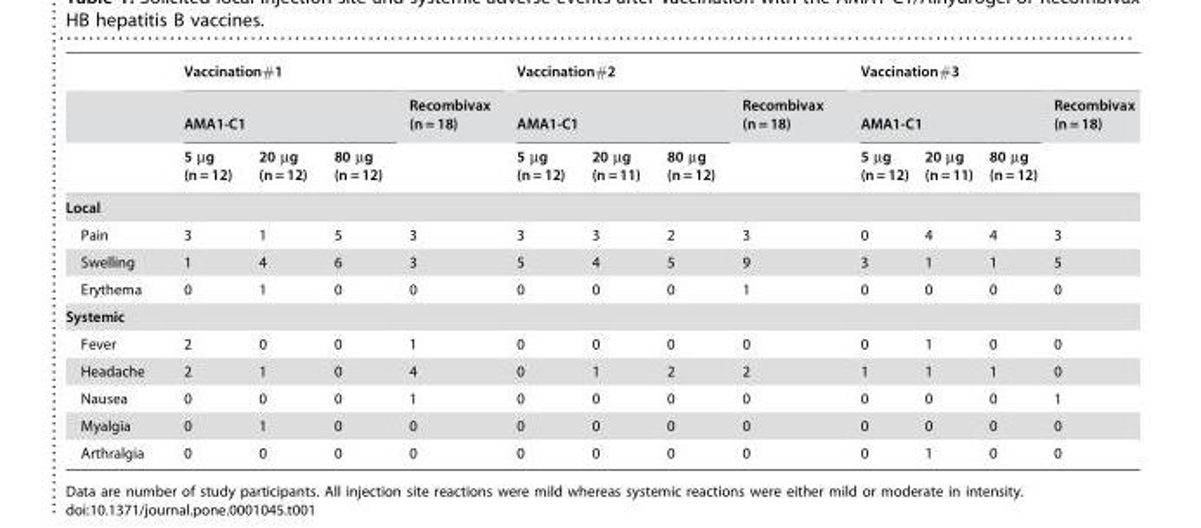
<table><thead><tr><td rowspan="3"></td><td colspan="4">Vaccination#1</td><td colspan="4">Vaccination#2</td><td colspan="4">Vaccination#3</td></tr><tr><td colspan="3">AMA1-C1</td><td rowspan="2">Recombivax (n = 18)</td><td colspan="3">AMA1-C1</td><td rowspan="2">Recombivax (n = 18)</td><td colspan="3">AMA1-C1</td><td rowspan="2">Recombivax (n = 18)</td></tr><tr><td>5 µg (n = 12)</td><td>20 µg (n = 12)</td><td>80 µg (n = 12)</td><td>5 µg (n = 12)</td><td>20 µg (n = 11)</td><td>80 µg (n = 12)</td><td>5 µg (n = 12)</td><td>20 µg (n = 11)</td><td>80 µg (n = 12)</td></tr></thead><tbody><tr><td colspan="13">Local</td></tr><tr><td>Pain</td><td>3</td><td>1</td><td>5</td><td>3</td><td>3</td><td>3</td><td>2</td><td>3</td><td>0</td><td>4</td><td>4</td><td>3</td></tr><tr><td>Swelling</td><td>1</td><td>4</td><td>6</td><td>3</td><td>5</td><td>4</td><td>5</td><td>9</td><td>3</td><td>1</td><td>1</td><td>5</td></tr><tr><td>Erythema</td><td>0</td><td>1</td><td>0</td><td>0</td><td>0</td><td>0</td><td>0</td><td>1</td><td>0</td><td>0</td><td>0</td><td>0</td></tr><tr><td colspan="13">Systemic</td></tr><tr><td>Fever</td><td>2</td><td>0</td><td>0</td><td>1</td><td>0</td><td>0</td><td>0</td><td>0</td><td>0</td><td>1</td><td>0</td><td>0</td></tr><tr><td>Headache</td><td>2</td><td>1</td><td>0</td><td>4</td><td>0</td><td>1</td><td>2</td><td>2</td><td>1</td><td>1</td><td>1</td><td>0</td></tr><tr><td>Nausea</td><td>0</td><td>0</td><td>0</td><td>1</td><td>0</td><td>0</td><td>0</td><td>0</td><td>0</td><td>0</td><td>0</td><td>1</td></tr><tr><td>Myalgia</td><td>0</td><td>1</td><td>0</td><td>0</td><td>0</td><td>0</td><td>0</td><td>0</td><td>0</td><td>0</td><td>0</td><td>0</td></tr><tr><td>Arthralgia</td><td>0</td><td>0</td><td>0</td><td>0</td><td>0</td><td>0</td><td>0</td><td>0</td><td>0</td><td>1</td><td>0</td><td>0</td></tr></tbody></table>